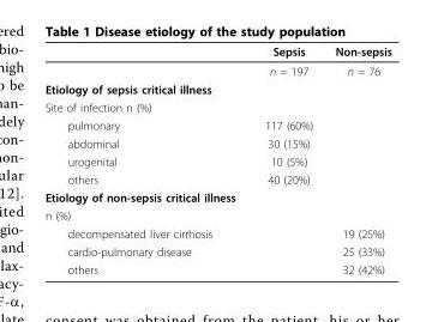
<table><thead><tr><td></td><td>Sepsis</td><td>Non-sepsis</td></tr></thead><tbody><tr><td></td><td>n = 197</td><td>n = 76</td></tr><tr><td colspan="3">Etiology of sepsis critical illness</td></tr><tr><td colspan="3">Site of infection n (%)</td></tr><tr><td>pulmonary</td><td>117 (60%)</td><td></td></tr><tr><td>abdominal</td><td>30 (15%)</td><td></td></tr><tr><td>urogenital</td><td>10 (5%)</td><td></td></tr><tr><td>others</td><td>40 (20%)</td><td></td></tr><tr><td colspan="3">Etiology of non-sepsis critical illness</td></tr><tr><td colspan="3">n (%)</td></tr><tr><td>decompensated liver cirrhosis</td><td></td><td>19 (25%)</td></tr><tr><td>cardio-pulmonary disease</td><td></td><td>25 (33%)</td></tr><tr><td>others</td><td></td><td>32 (42%)</td></tr></tbody></table>